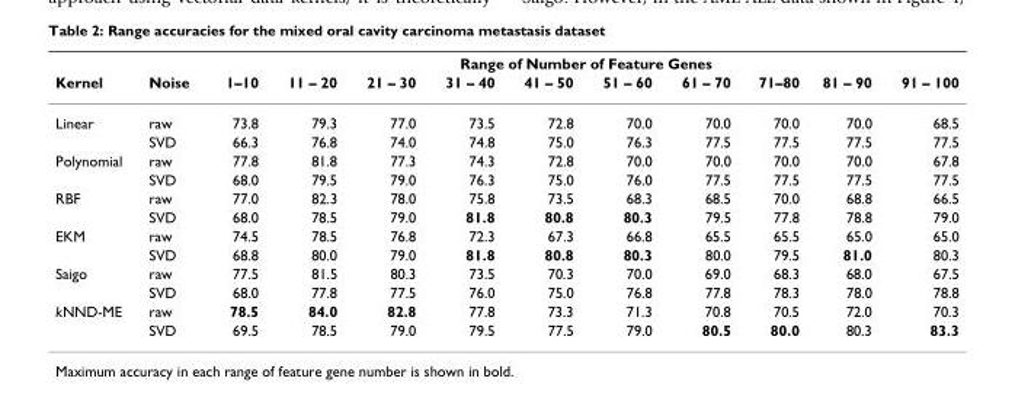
<table><thead><tr><td rowspan="2">Kernel</td><td rowspan="2">Noise</td><td colspan="10">Range of Number of Feature Genes</td></tr><tr><td>1–10</td><td>11 – 20</td><td>21 – 30</td><td>31 – 40</td><td>41 – 50</td><td>51 – 60</td><td>61 – 70</td><td>71–80</td><td>81 – 90</td><td>91 – 100</td></tr></thead><tbody><tr><td rowspan="2">Linear</td><td>raw</td><td>73.8</td><td>79.3</td><td>77.0</td><td>73.5</td><td>72.8</td><td>70.0</td><td>70.0</td><td>70.0</td><td>70.0</td><td>68.5</td></tr><tr><td>SVD</td><td>66.3</td><td>76.8</td><td>74.0</td><td>74.8</td><td>75.0</td><td>76.3</td><td>77.5</td><td>77.5</td><td>77.5</td><td>77.5</td></tr><tr><td rowspan="2">Polynomial</td><td>raw</td><td>77.8</td><td>81.8</td><td>77.3</td><td>74.3</td><td>72.8</td><td>70.0</td><td>70.0</td><td>70.0</td><td>70.0</td><td>67.8</td></tr><tr><td>SVD</td><td>68.0</td><td>79.5</td><td>79.0</td><td>76.3</td><td>75.0</td><td>76.0</td><td>77.5</td><td>77.5</td><td>77.5</td><td>77.5</td></tr><tr><td rowspan="2">RBF</td><td>raw</td><td>77.0</td><td>82.3</td><td>78.0</td><td>75.8</td><td>73.5</td><td>68.3</td><td>68.5</td><td>70.0</td><td>68.8</td><td>66.5</td></tr><tr><td>SVD</td><td>68.0</td><td>78.5</td><td>79.0</td><td>81.8</td><td>80.8</td><td>80.3</td><td>79.5</td><td>77.8</td><td>78.8</td><td>79.0</td></tr><tr><td rowspan="2">EKM</td><td>raw</td><td>74.5</td><td>78.5</td><td>76.8</td><td>72.3</td><td>67.3</td><td>66.8</td><td>65.5</td><td>65.5</td><td>65.0</td><td>65.0</td></tr><tr><td>SVD</td><td>68.8</td><td>80.0</td><td>79.0</td><td>81.8</td><td>80.8</td><td>80.3</td><td>80.0</td><td>79.5</td><td>81.0</td><td>80.3</td></tr><tr><td rowspan="2">Saigo</td><td>raw</td><td>77.5</td><td>81.5</td><td>80.3</td><td>73.5</td><td>70.3</td><td>70.0</td><td>69.0</td><td>68.3</td><td>68.0</td><td>67.5</td></tr><tr><td>SVD</td><td>68.0</td><td>77.8</td><td>77.5</td><td>76.0</td><td>75.0</td><td>76.8</td><td>77.8</td><td>78.3</td><td>78.0</td><td>78.8</td></tr><tr><td rowspan="2">kNND-ME</td><td>raw</td><td>78.5</td><td>84.0</td><td>82.8</td><td>77.8</td><td>73.3</td><td>71.3</td><td>70.8</td><td>70.5</td><td>72.0</td><td>70.3</td></tr><tr><td>SVD</td><td>69.5</td><td>78.5</td><td>79.0</td><td>79.5</td><td>77.5</td><td>79.0</td><td>80.5</td><td>80.0</td><td>80.3</td><td>83.3</td></tr></tbody></table>